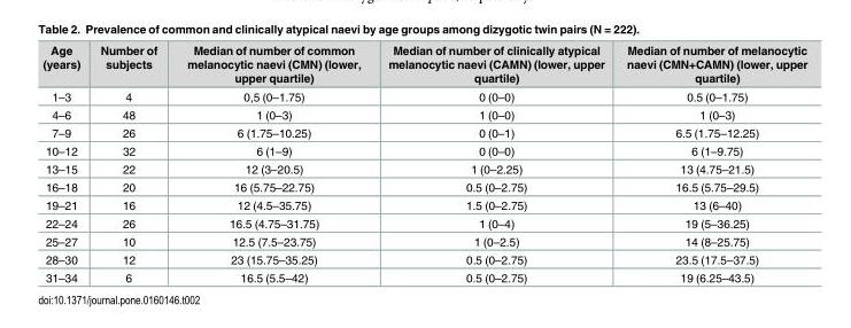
<table><thead><tr><td>Age (years)</td><td>Number of subjects</td><td>Median of number of common melanocytic naevi (CMN) (lower, upper quartile)</td><td>Median of number of clinically atypical melanocytic naevi (CAMN) (lower, upper quartile)</td><td>Median of number of melanocytic naevi (CMN+CAMN) (lower, upper quartile)</td></tr></thead><tbody><tr><td>1–3</td><td>4</td><td>0,5 (0–1.75)</td><td>0 (0–0)</td><td>0.5 (0–1.75)</td></tr><tr><td>4–6</td><td>48</td><td>1 (0–3)</td><td>1 (0–0)</td><td>1 (0–3)</td></tr><tr><td>7–9</td><td>26</td><td>6 (1.75–10.25)</td><td>0 (0–1)</td><td>6.5 (1.75–12.25)</td></tr><tr><td>10–12</td><td>32</td><td>6 (1–9)</td><td>0 (0–0)</td><td>6 (1–9.75)</td></tr><tr><td>13–15</td><td>22</td><td>12 (3–20.5)</td><td>1 (0–2.25)</td><td>13 (4.75–21.5)</td></tr><tr><td>16–18</td><td>20</td><td>16 (5.75–22.75)</td><td>0.5 (0–2.75)</td><td>16.5 (5.75–29.5)</td></tr><tr><td>19–21</td><td>16</td><td>12 (4.5–35.75)</td><td>1.5 (0–2.75)</td><td>13 (6–40)</td></tr><tr><td>22–24</td><td>26</td><td>16.5 (4.75–31.75)</td><td>1 (0–4)</td><td>19 (5–36.25)</td></tr><tr><td>25–27</td><td>10</td><td>12.5 (7.5–23.75)</td><td>1 (0–2.5)</td><td>14 (8–25.75)</td></tr><tr><td>28–30</td><td>12</td><td>23 (15.75–35.25)</td><td>0.5 (0–2.75)</td><td>23.5 (17.5–37.5)</td></tr><tr><td>31–34</td><td>6</td><td>16.5 (5.5–42)</td><td>0.5 (0–2.75)</td><td>19 (6.25–43.5)</td></tr></tbody></table>